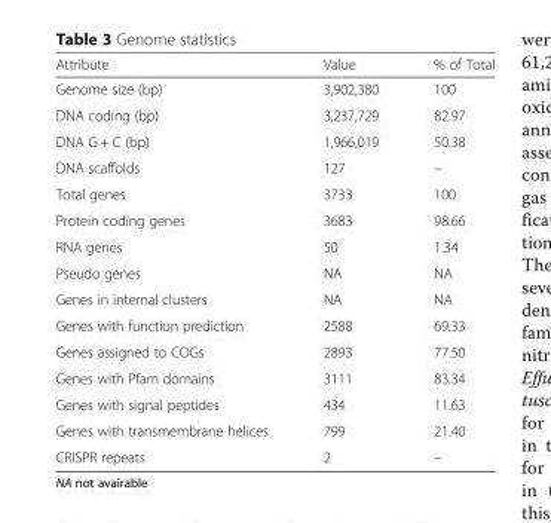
<table><thead><tr><td>Attribute</td><td>Value</td><td>% of Total</td></tr></thead><tbody><tr><td>Genome size (bp)</td><td>3,902,380</td><td>100</td></tr><tr><td>DNA coding (bp)</td><td>3,237,729</td><td>82.97</td></tr><tr><td>DNA G + C (bp)</td><td>1,966,019</td><td>50.38</td></tr><tr><td>DNA scaffolds</td><td>127</td><td>–</td></tr><tr><td>Total genes</td><td>3733</td><td>100</td></tr><tr><td>Protein coding genes</td><td>3683</td><td>98.66</td></tr><tr><td>RNA genes</td><td>50</td><td>1.34</td></tr><tr><td>Pseudo genes</td><td>NA</td><td>NA</td></tr><tr><td>Genes in internal clusters</td><td>NA</td><td>NA</td></tr><tr><td>Genes with function prediction</td><td>2588</td><td>69.33</td></tr><tr><td>Genes assigned to COGs</td><td>2893</td><td>77.50</td></tr><tr><td>Genes with Pfam domains</td><td>3111</td><td>83.34</td></tr><tr><td>Genes with signal peptides</td><td>434</td><td>11.63</td></tr><tr><td>Genes with transmembrane helices</td><td>799</td><td>21.40</td></tr><tr><td>CRISPR repeats</td><td>2</td><td>–</td></tr></tbody></table>